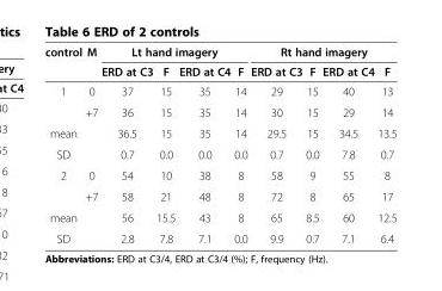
<table><thead><tr><td rowspan="2">control</td><td rowspan="2">M</td><td colspan="4">Lt hand imagery</td><td colspan="4">Rt hand imagery</td></tr><tr><td>ERD at C3</td><td>F</td><td>ERD at C4</td><td>F</td><td>ERD at C3</td><td>F</td><td>ERD at C4</td><td>F</td></tr></thead><tbody><tr><td rowspan="2">1</td><td>0</td><td>37</td><td>15</td><td>35</td><td>14</td><td>29</td><td>15</td><td>40</td><td>13</td></tr><tr><td>+7</td><td>36</td><td>15</td><td>35</td><td>14</td><td>30</td><td>15</td><td>29</td><td>14</td></tr><tr><td>mean</td><td></td><td>36.5</td><td>15</td><td>35</td><td>14</td><td>29.5</td><td>15</td><td>34.5</td><td>13.5</td></tr><tr><td>SD</td><td></td><td>0.7</td><td>0.0</td><td>0.0</td><td>0.0</td><td>0.7</td><td>0.0</td><td>7.8</td><td>0.7</td></tr><tr><td rowspan="2">2</td><td>0</td><td>54</td><td>10</td><td>38</td><td>8</td><td>58</td><td>9</td><td>55</td><td>8</td></tr><tr><td>+7</td><td>58</td><td>21</td><td>48</td><td>8</td><td>72</td><td>8</td><td>65</td><td>17</td></tr><tr><td>mean</td><td></td><td>56</td><td>15.5</td><td>43</td><td>8</td><td>65</td><td>8.5</td><td>60</td><td>12.5</td></tr><tr><td>SD</td><td></td><td>2.8</td><td>7.8</td><td>7.1</td><td>0.0</td><td>9.9</td><td>0.7</td><td>7.1</td><td>6.4</td></tr></tbody></table>